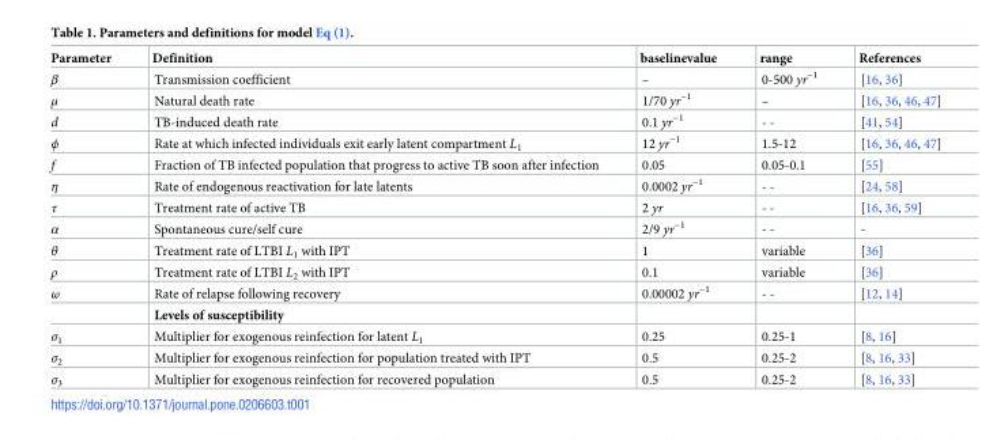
<table><thead><tr><td>Parameter</td><td>Definition</td><td>baselinevalue</td><td>range</td><td>References</td></tr></thead><tbody><tr><td>β</td><td>Transmission coefficient</td><td>–</td><td>0-500 yr<sup>−1</sup></td><td>[16, 36]</td></tr><tr><td>μ</td><td>Natural death rate</td><td>1/70 yr<sup>−1</sup></td><td>–</td><td>[16, 36, 46, 47]</td></tr><tr><td>d</td><td>TB-induced death rate</td><td>0.1 yr<sup>−1</sup></td><td>- -</td><td>[41, 54]</td></tr><tr><td>ϕ</td><td>Rate at which infected individuals exit early latent compartment L<sub>1</sub></td><td>12 yr<sup>−1</sup></td><td>1.5-12</td><td>[16, 36, 46, 47]</td></tr><tr><td>f</td><td>Fraction of TB infected population that progress to active TB soon after infection</td><td>0.05</td><td>0.05-0.1</td><td>[55]</td></tr><tr><td>η</td><td>Rate of endogenous reactivation for late latents</td><td>0.0002 yr<sup>−1</sup></td><td>- -</td><td>[24, 58]</td></tr><tr><td>τ</td><td>Treatment rate of active TB</td><td>2 yr</td><td>- -</td><td>[16, 36, 59]</td></tr><tr><td>α</td><td>Spontaneous cure/self cure</td><td>2/9 yr<sup>−1</sup></td><td>- -</td><td>-</td></tr><tr><td>θ</td><td>Treatment rate of LTBI L<sub>1</sub> with IPT</td><td>1</td><td>variable</td><td>[36]</td></tr><tr><td>ρ</td><td>Treatment rate of LTBI L<sub>2</sub> with IPT</td><td>0.1</td><td>variable</td><td>[36]</td></tr><tr><td rowspan="2">ω</td><td>Rate of relapse following recovery</td><td>0.00002 yr<sup>−1</sup></td><td>- -</td><td>[12, 14]</td></tr><tr><td>Levels of susceptibility</td><td></td><td></td><td></td></tr><tr><td>σ<sub>1</sub></td><td>Multiplier for exogenous reinfection for latent L<sub>1</sub></td><td>0.25</td><td>0.25-1</td><td>[8, 16]</td></tr><tr><td>σ<sub>2</sub></td><td>Multiplier for exogenous reinfection for population treated with IPT</td><td>0.5</td><td>0.25-2</td><td>[8, 16, 33]</td></tr><tr><td>σ<sub>3</sub></td><td>Multiplier for exogenous reinfection for recovered population</td><td>0.5</td><td>0.25-2</td><td>[8, 16, 33]</td></tr></tbody></table>